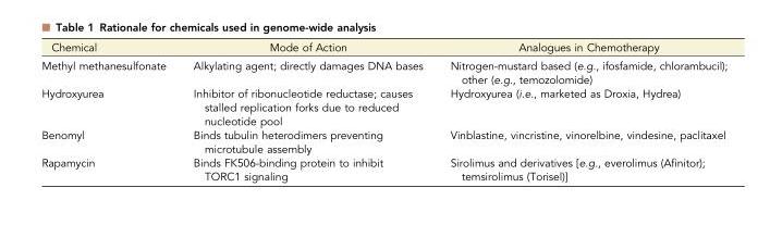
<table><thead><tr><td>Chemical</td><td>Mode of Action</td><td>Analogues in Chemotherapy</td></tr></thead><tbody><tr><td>Methyl methanesulfonate</td><td>Alkylating agent; directly damages DNA bases</td><td>Nitrogen-mustard based (e.g., ifosfamide, chlorambucil); other (e.g., temozolomide)</td></tr><tr><td>Hydroxyurea</td><td>Inhibitor of ribonucleotide reductase; causes stalled replication forks due to reduced nucleotide pool</td><td>Hydroxyurea (i.e., marketed as Droxia, Hydrea)</td></tr><tr><td>Benomyl</td><td>Binds tubulin heterodimers preventing microtubule assembly</td><td>Vinblastine, vincristine, vinorelbine, vindesine, paclitaxel</td></tr><tr><td>Rapamycin</td><td>Binds FK506-binding protein to inhibit TORC1 signaling</td><td>Sirolimus and derivatives [e.g., everolimus (Afinitor); temsirolimus (Torisel)]</td></tr></tbody></table>